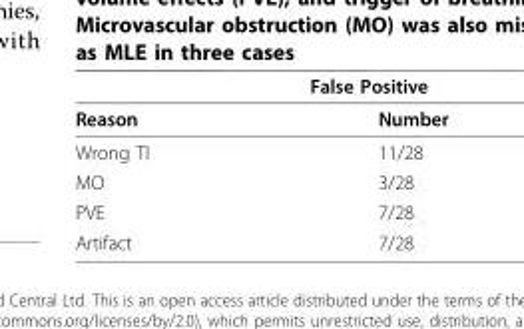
<table><thead><tr><td colspan="2">False Positive</td></tr><tr><td>Reason</td><td>Number</td></tr></thead><tbody><tr><td>Wrong TI</td><td>11/28</td></tr><tr><td>MO</td><td>3/28</td></tr><tr><td>PVE</td><td>7/28</td></tr><tr><td>Artifact</td><td>7/28</td></tr></tbody></table>